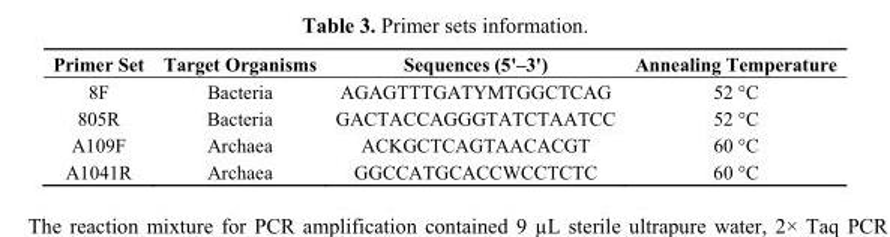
<table><thead><tr><td>Primer Set</td><td>Target Organisms</td><td>Sequences (5&#x27;–3&#x27;)</td><td>Annealing Temperature</td></tr></thead><tbody><tr><td>8F</td><td>Bacteria</td><td>AGAGTTTGATYMTGGCTCAG</td><td>52 °C</td></tr><tr><td>805R</td><td>Bacteria</td><td>GACTACCAGGGTATCTAATCC</td><td>52 °C</td></tr><tr><td>A109F</td><td>Archaea</td><td>ACKGCTCAGTAACACGT</td><td>60 °C</td></tr><tr><td>A1041R</td><td>Archaea</td><td>GGCCATGCACCWCCTCTC</td><td>60 °C</td></tr></tbody></table>